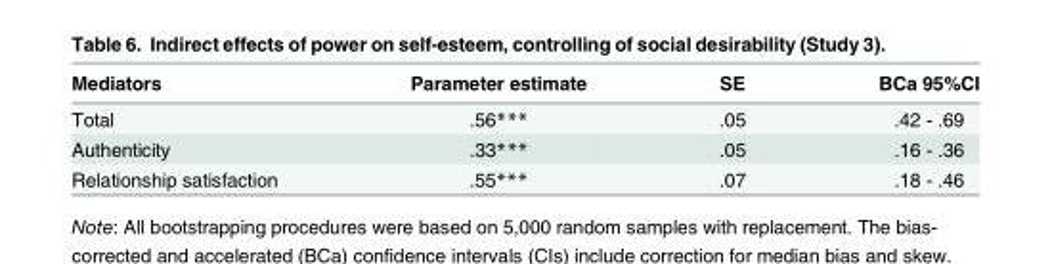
<table><thead><tr><td>Mediators</td><td>Parameter estimate</td><td>SE</td><td>BCa 95%CI</td></tr></thead><tbody><tr><td>Total</td><td>.56***</td><td>.05</td><td>.42 - .69</td></tr><tr><td>Authenticity</td><td>.33***</td><td>.05</td><td>.16 - .36</td></tr><tr><td>Relationship satisfaction</td><td>.55***</td><td>.07</td><td>.18 - .46</td></tr></tbody></table>